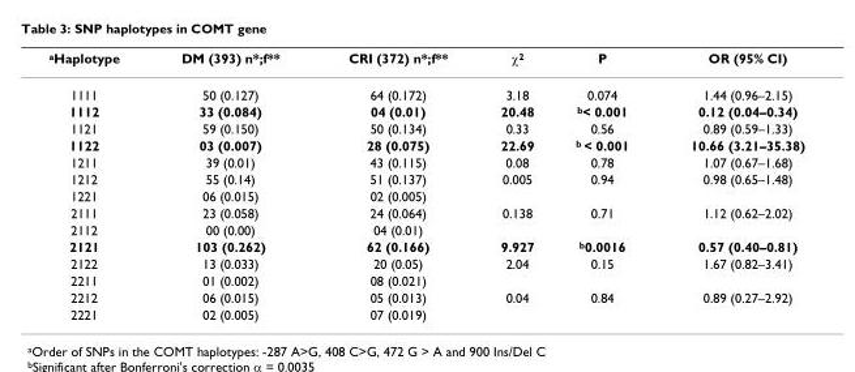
<table><thead><tr><td><sup>a</sup>Haplotype</td><td>DM (393) n*;f**</td><td>CRI (372) n*;f**</td><td>χ<sup>2</sup></td><td>P</td><td>OR (95% CI)</td></tr></thead><tbody><tr><td>1111</td><td>50 (0.127)</td><td>64 (0.172)</td><td>3.18</td><td>0.074</td><td>1.44 (0.96–2.15)</td></tr><tr><td>1112</td><td>33 (0.084)</td><td>04 (0.01)</td><td>20.48</td><td><sup>b</sup>&lt; 0.001</td><td>0.12 (0.04–0.34)</td></tr><tr><td>1121</td><td>59 (0.150)</td><td>50 (0.134)</td><td>0.33</td><td>0.56</td><td>0.89 (0.59–1.33)</td></tr><tr><td>1122</td><td>03 (0.007)</td><td>28 (0.075)</td><td>22.69</td><td><sup>b</sup> &lt; 0.001</td><td>10.66 (3.21–35.38)</td></tr><tr><td>1211</td><td>39 (0.01)</td><td>43 (0.115)</td><td>0.08</td><td>0.78</td><td>1.07 (0.67–1.68)</td></tr><tr><td>1212</td><td>55 (0.14)</td><td>51 (0.137)</td><td>0.005</td><td>0.94</td><td>0.98 (0.65–1.48)</td></tr><tr><td>1221</td><td>06 (0.015)</td><td>02 (0.005)</td><td></td><td></td><td></td></tr><tr><td>2111</td><td>23 (0.058)</td><td>24 (0.064)</td><td>0.138</td><td>0.71</td><td>1.12 (0.62–2.02)</td></tr><tr><td>2112</td><td>00 (0.00)</td><td>04 (0.01)</td><td></td><td></td><td></td></tr><tr><td>2121</td><td>103 (0.262)</td><td>62 (0.166)</td><td>9.927</td><td><sup>b</sup>0.0016</td><td>0.57 (0.40–0.81)</td></tr><tr><td>2122</td><td>13 (0.033)</td><td>20 (0.05)</td><td>2.04</td><td>0.15</td><td>1.67 (0.82–3.41)</td></tr><tr><td>2211</td><td>01 (0.002)</td><td>08 (0.021)</td><td></td><td></td><td></td></tr><tr><td>2212</td><td>06 (0.015)</td><td>05 (0.013)</td><td>0.04</td><td>0.84</td><td>0.89 (0.27–2.92)</td></tr><tr><td>2221</td><td>02 (0.005)</td><td>07 (0.019)</td><td></td><td></td><td></td></tr></tbody></table>